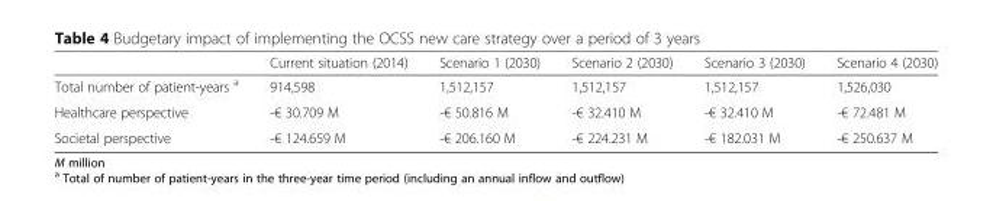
<table><thead><tr><td></td><td>Current situation (2014)</td><td>Scenario 1 (2030)</td><td>Scenario 2 (2030)</td><td>Scenario 3 (2030)</td><td>Scenario 4 (2030)</td></tr></thead><tbody><tr><td>Total number of patient-years <sup>a</sup></td><td>914,598</td><td>1,512,157</td><td>1,512,157</td><td>1,512,157</td><td>1,526,030</td></tr><tr><td>Healthcare perspective</td><td>-€ 30.709 M</td><td>-€ 50.816 M</td><td>-€ 32.410 M</td><td>-€ 32.410 M</td><td>-€ 72.481 M</td></tr><tr><td>Societal perspective</td><td>-€ 124.659 M</td><td>-€ 206.160 M</td><td>-€ 224.231 M</td><td>-€ 182.031 M</td><td>-€ 250.637 M</td></tr></tbody></table>